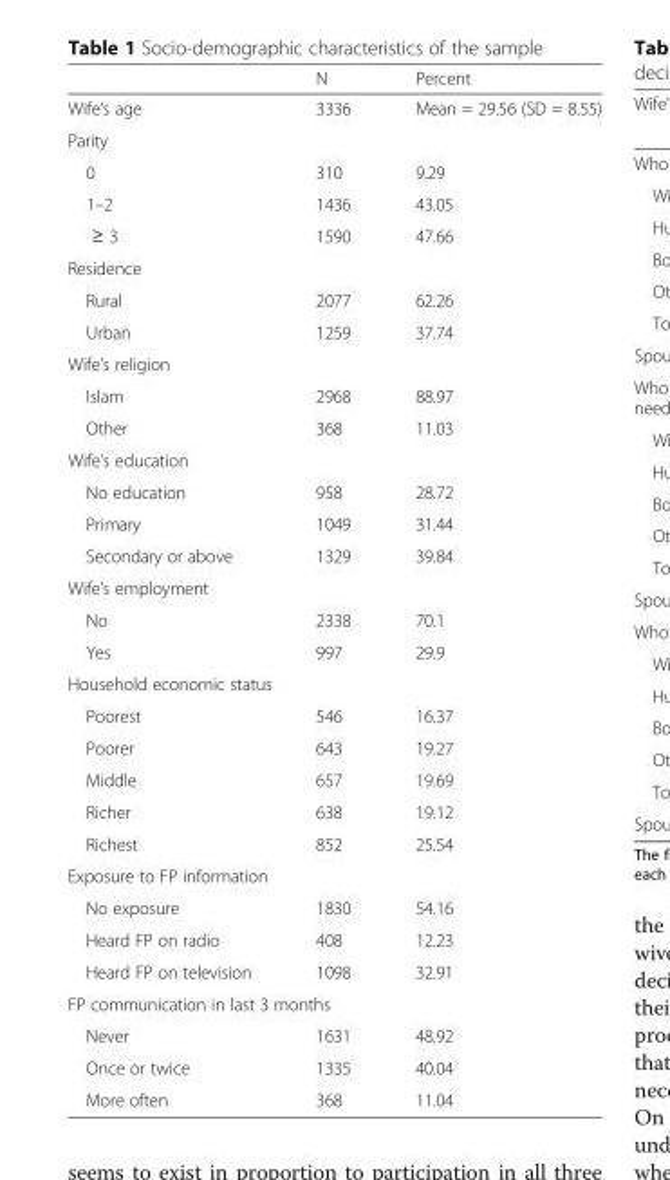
<table><thead><tr><td></td><td>N</td><td>Percent</td></tr></thead><tbody><tr><td>Wife’s age</td><td>3336</td><td>Mean = 29.56 (SD = 8.55)</td></tr><tr><td colspan="3">Parity</td></tr><tr><td>0</td><td>310</td><td>9.29</td></tr><tr><td>1–2</td><td>1436</td><td>43.05</td></tr><tr><td>≥ 3</td><td>1590</td><td>47.66</td></tr><tr><td colspan="3">Residence</td></tr><tr><td>Rural</td><td>2077</td><td>62.26</td></tr><tr><td>Urban</td><td>1259</td><td>37.74</td></tr><tr><td colspan="3">Wife’s religion</td></tr><tr><td>Islam</td><td>2968</td><td>88.97</td></tr><tr><td>Other</td><td>368</td><td>11.03</td></tr><tr><td colspan="3">Wife’s education</td></tr><tr><td>No education</td><td>958</td><td>28.72</td></tr><tr><td>Primary</td><td>1049</td><td>31.44</td></tr><tr><td>Secondary or above</td><td>1329</td><td>39.84</td></tr><tr><td colspan="3">Wife’s employment</td></tr><tr><td>No</td><td>2338</td><td>70.1</td></tr><tr><td>Yes</td><td>997</td><td>29.9</td></tr><tr><td colspan="3">Household economic status</td></tr><tr><td>Poorest</td><td>546</td><td>16.37</td></tr><tr><td>Poorer</td><td>643</td><td>19.27</td></tr><tr><td>Middle</td><td>657</td><td>19.69</td></tr><tr><td>Richer</td><td>638</td><td>19.12</td></tr><tr><td>Richest</td><td>852</td><td>25.54</td></tr><tr><td colspan="3">Exposure to FP information</td></tr><tr><td>No exposure</td><td>1830</td><td>54.16</td></tr><tr><td>Heard FP on radio</td><td>408</td><td>12.23</td></tr><tr><td>Heard FP on television</td><td>1098</td><td>32.91</td></tr><tr><td colspan="3">FP communication in last 3 months</td></tr><tr><td>Never</td><td>1631</td><td>48.92</td></tr><tr><td>Once or twice</td><td>1335</td><td>40.04</td></tr><tr><td>More often</td><td>368</td><td>11.04</td></tr></tbody></table>